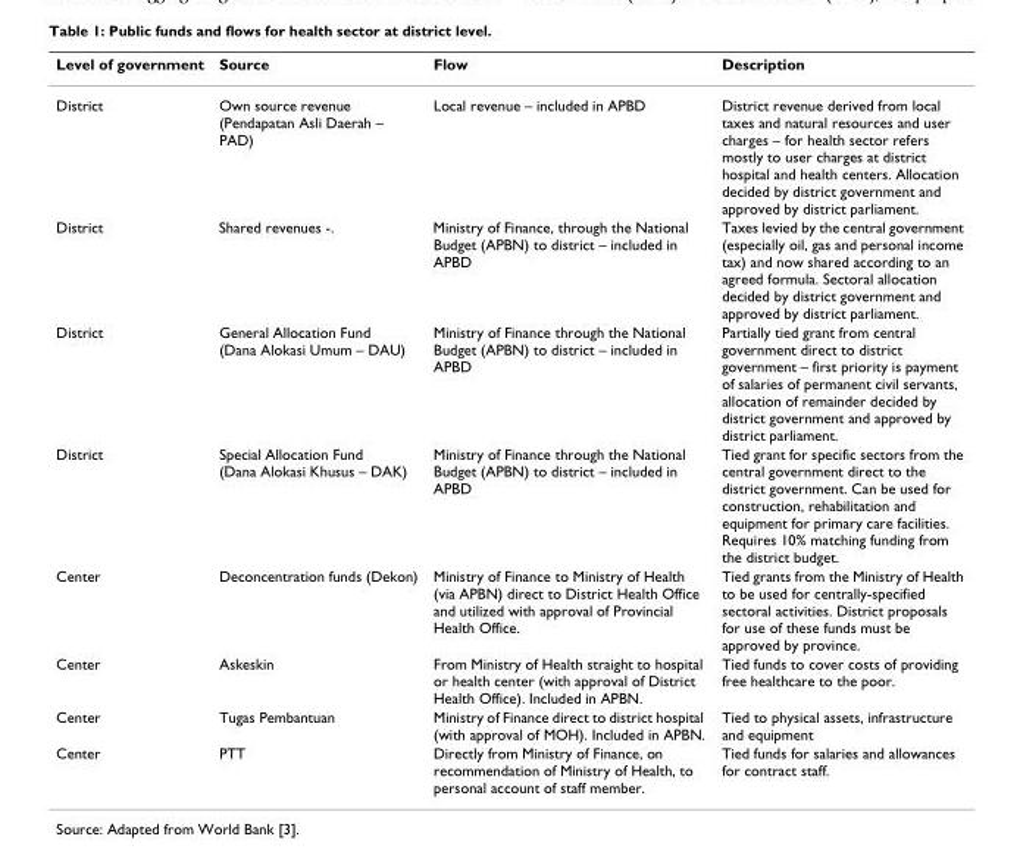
<table><thead><tr><td>Level of government</td><td>Source</td><td>Flow</td><td>Description</td></tr></thead><tbody><tr><td>District</td><td>Own source revenue (Pendapatan Asli Daerah – PAD)</td><td>Local revenue – included in APBD</td><td>District revenue derived from local taxes and natural resources and user charges – for health sector refers mostly to user charges at district hospital and health centers. Allocation decided by district government and approved by district parliament.</td></tr><tr><td>District</td><td>Shared revenues -.</td><td>Ministry of Finance, through the National Budget (APBN) to district – included in APBD</td><td>Taxes levied by the central government (especially oil, gas and personal income tax) and now shared according to an agreed formula. Sectoral allocation decided by district government and approved by district parliament.</td></tr><tr><td>District</td><td>General Allocation Fund (Dana Alokasi Umum – DAU)</td><td>Ministry of Finance through the National Budget (APBN) to district – included in APBD</td><td>Partially tied grant from central government direct to district government – first priority is payment of salaries of permanent civil servants, allocation of remainder decided by district government and approved by district parliament.</td></tr><tr><td>District</td><td>Special Allocation Fund (Dana Alokasi Khusus – DAK)</td><td>Ministry of Finance through the National Budget (APBN) to district – included in APBD</td><td>Tied grant for specific sectors from the central government direct to the district government. Can be used for construction, rehabilitation and equipment for primary care facilities. Requires 10% matching funding from the district budget.</td></tr><tr><td>Center</td><td>Deconcentration funds (Dekon)</td><td>Ministry of Finance to Ministry of Health (via APBN) direct to District Health Office and utilized with approval of Provincial Health Office.</td><td>Tied grants from the Ministry of Health to be used for centrally-specified sectoral activities. District proposals for use of these funds must be approved by province.</td></tr><tr><td>Center</td><td>Askeskin</td><td>From Ministry of Health straight to hospital or health center (with approval of District Health Office). Included in APBN.</td><td>Tied funds to cover costs of providing free healthcare to the poor.</td></tr><tr><td>Center</td><td>Tugas Pembantuan</td><td>Ministry of Finance direct to district hospital (with approval of MOH). Included in APBN.</td><td>Tied to physical assets, infrastructure and equipment</td></tr><tr><td>Center</td><td>PTT</td><td>Directly from Ministry of Finance, on recommendation of Ministry of Health, to personal account of staff member.</td><td>Tied funds for salaries and allowances for contract staff.</td></tr></tbody></table>